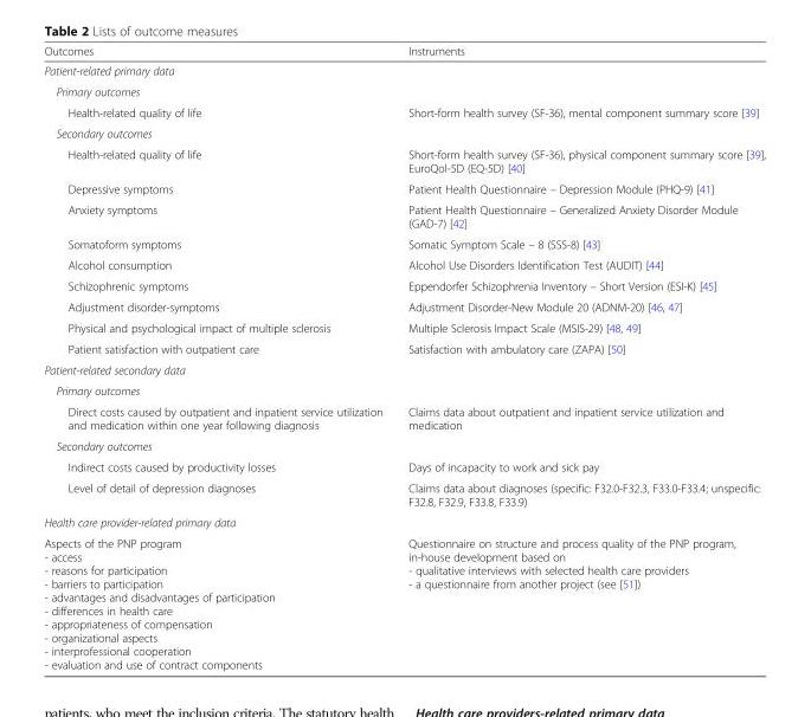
<table><thead><tr><td>Outcomes</td><td>Instruments</td></tr></thead><tbody><tr><td colspan="2">Patient-related primary data</td></tr><tr><td colspan="2">Primary outcomes</td></tr><tr><td>Health-related quality of life</td><td>Short-form health survey (SF-36), mental component summary score [39]</td></tr><tr><td colspan="2">Secondary outcomes</td></tr><tr><td>Health-related quality of life</td><td>Short-form health survey (SF-36), physical component summary score [39], EuroQol-5D (EQ-5D) [40]</td></tr><tr><td>Depressive symptoms</td><td>Patient Health Questionnaire – Depression Module (PHQ-9) [41]</td></tr><tr><td>Anxiety symptoms</td><td>Patient Health Questionnaire – Generalized Anxiety Disorder Module (GAD-7) [42]</td></tr><tr><td>Somatoform symptoms</td><td>Somatic Symptom Scale – 8 (SSS-8) [43]</td></tr><tr><td>Alcohol consumption</td><td>Alcohol Use Disorders Identification Test (AUDIT) [44]</td></tr><tr><td>Schizophrenic symptoms</td><td>Eppendorfer Schizophrenia Inventory – Short Version (ESI-K) [45]</td></tr><tr><td>Adjustment disorder-symptoms</td><td>Adjustment Disorder-New Module 20 (ADNM-20) [46, 47]</td></tr><tr><td>Physical and psychological impact of multiple sclerosis</td><td>Multiple Sclerosis Impact Scale (MSIS-29) [48, 49]</td></tr><tr><td>Patient satisfaction with outpatient care</td><td>Satisfaction with ambulatory care (ZAPA) [50]</td></tr><tr><td colspan="2">Patient-related secondary data</td></tr><tr><td colspan="2">Primary outcomes</td></tr><tr><td>Direct costs caused by outpatient and inpatient service utilization and medication within one year following diagnosis</td><td>Claims data about outpatient and inpatient service utilization and medication</td></tr><tr><td colspan="2">Secondary outcomes</td></tr><tr><td>Indirect costs caused by productivity losses</td><td>Days of incapacity to work and sick pay</td></tr><tr><td>Level of detail of depression diagnoses</td><td>Claims data about diagnoses (specific: F32.0-F32.3, F33.0-F33.4; unspecific: F32.8, F32.9, F33.8, F33.9)</td></tr><tr><td colspan="2">Health care provider-related primary data</td></tr><tr><td>Aspects of the PNP program - access - reasons for participation - barriers to participation - advantages and disadvantages of participation - differences in health care - appropriateness of compensation - organizational aspects - interprofessional cooperation - evaluation and use of contract components</td><td>Questionnaire on structure and process quality of the PNP program, in-house development based on - qualitative interviews with selected health care providers - a questionnaire from another project (see [51])</td></tr></tbody></table>